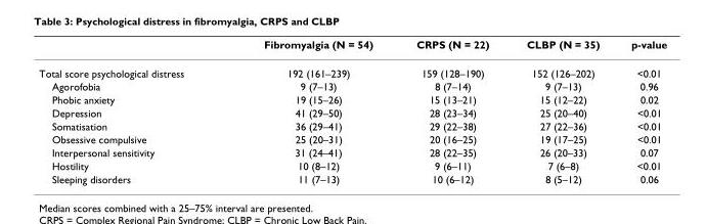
<table><thead><tr><td></td><td>Fibromyalgia (N = 54)</td><td>CRPS (N = 22)</td><td>CLBP (N = 35)</td><td>p-value</td></tr></thead><tbody><tr><td>Total score psychological distress</td><td>192 (161–239)</td><td>159 (128–190)</td><td>152 (126–202)</td><td>&lt;0.01</td></tr><tr><td>Agorofobia</td><td>9 (7–13)</td><td>8 (7–14)</td><td>9 (7–13)</td><td>0.96</td></tr><tr><td>Phobic anxiety</td><td>19 (15–26)</td><td>15 (13–21)</td><td>15 (12–22)</td><td>0.02</td></tr><tr><td>Depression</td><td>41 (29–50)</td><td>28 (23–34)</td><td>25 (20–40)</td><td>&lt;0.01</td></tr><tr><td>Somatisation</td><td>36 (29–41)</td><td>29 (22–38)</td><td>27 (22–36)</td><td>&lt;0.01</td></tr><tr><td>Obsessive compulsive</td><td>25 (20–31)</td><td>20 (16–25)</td><td>19 (17–25)</td><td>&lt;0.01</td></tr><tr><td>Interpersonal sensitivity</td><td>31 (24–41)</td><td>28 (22–35)</td><td>26 (20–33)</td><td>0.07</td></tr><tr><td>Hostility</td><td>10 (8–12)</td><td>9 (6–11)</td><td>7 (6–8)</td><td>&lt;0.01</td></tr><tr><td>Sleeping disorders</td><td>11 (7–13)</td><td>10 (6–12)</td><td>8 (5–12)</td><td>0.06</td></tr></tbody></table>